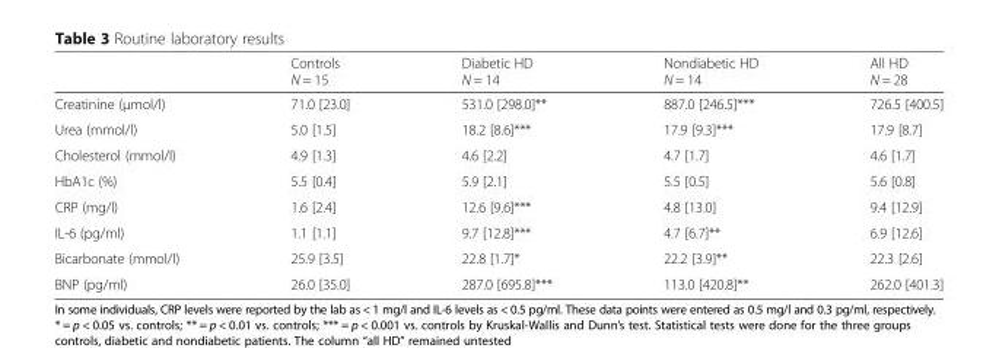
<table><thead><tr><td></td><td>Controls N = 15</td><td>Diabetic HD N = 14</td><td>Nondiabetic HD N = 14</td><td>All HD N = 28</td></tr></thead><tbody><tr><td>Creatinine (μmol/l)</td><td>71.0 [23.0]</td><td>531.0 [298.0]**</td><td>887.0 [246.5]***</td><td>726.5 [400.5]</td></tr><tr><td>Urea (mmol/l)</td><td>5.0 [1.5]</td><td>18.2 [8.6]***</td><td>17.9 [9.3]***</td><td>17.9 [8.7]</td></tr><tr><td>Cholesterol (mmol/l)</td><td>4.9 [1.3]</td><td>4.6 [2.2]</td><td>4.7 [1.7]</td><td>4.6 [1.7]</td></tr><tr><td>HbA1c (%)</td><td>5.5 [0.4]</td><td>5.9 [2.1]</td><td>5.5 [0.5]</td><td>5.6 [0.8]</td></tr><tr><td>CRP (mg/l)</td><td>1.6 [2.4]</td><td>12.6 [9.6]***</td><td>4.8 [13.0]</td><td>9.4 [12.9]</td></tr><tr><td>IL-6 (pg/ml)</td><td>1.1 [1.1]</td><td>9.7 [12.8]***</td><td>4.7 [6.7]**</td><td>6.9 [12.6]</td></tr><tr><td>Bicarbonate (mmol/l)</td><td>25.9 [3.5]</td><td>22.8 [1.7]*</td><td>22.2 [3.9]**</td><td>22.3 [2.6]</td></tr><tr><td>BNP (pg/ml)</td><td>26.0 [35.0]</td><td>287.0 [695.8]***</td><td>113.0 [420.8]**</td><td>262.0 [401.3]</td></tr></tbody></table>